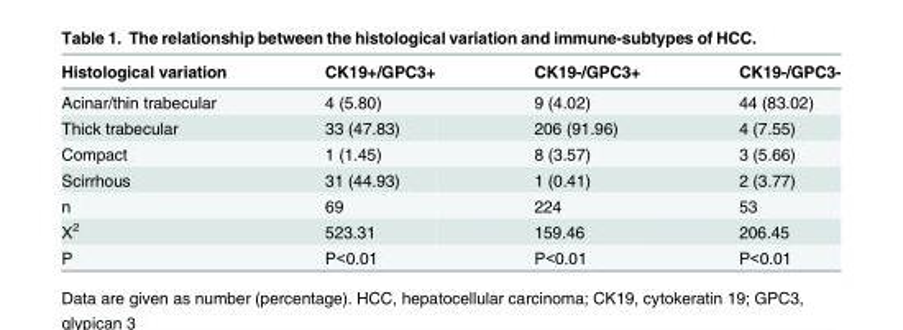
<table><thead><tr><td>Histological variation</td><td>CK19+/GPC3+</td><td>CK19-/GPC3+</td><td>CK19-/GPC3-</td></tr></thead><tbody><tr><td>Acinar/thin trabecular</td><td>4 (5.80)</td><td>9 (4.02)</td><td>44 (83.02)</td></tr><tr><td>Thick trabecular</td><td>33 (47.83)</td><td>206 (91.96)</td><td>4 (7.55)</td></tr><tr><td>Compact</td><td>1 (1.45)</td><td>8 (3.57)</td><td>3 (5.66)</td></tr><tr><td>Scirrhous</td><td>31 (44.93)</td><td>1 (0.41)</td><td>2 (3.77)</td></tr><tr><td>n</td><td>69</td><td>224</td><td>53</td></tr><tr><td>Χ<sup>2</sup></td><td>523.31</td><td>159.46</td><td>206.45</td></tr><tr><td>P</td><td>P&lt;0.01</td><td>P&lt;0.01</td><td>P&lt;0.01</td></tr></tbody></table>